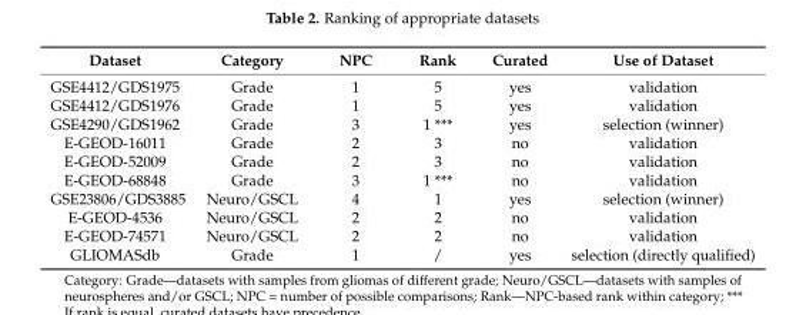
<table><thead><tr><td>Dataset</td><td>Category</td><td>NPC</td><td>Rank</td><td>Curated</td><td>Use of Dataset</td></tr></thead><tbody><tr><td>GSE4412/GDS1975</td><td>Grade</td><td>1</td><td>5</td><td>yes</td><td>validation</td></tr><tr><td>GSE4412/GDS1976</td><td>Grade</td><td>1</td><td>5</td><td>yes</td><td>validation</td></tr><tr><td>GSE4290/GDS1962</td><td>Grade</td><td>3</td><td>1 ***</td><td>yes</td><td>selection (winner)</td></tr><tr><td>E-GEOD-16011</td><td>Grade</td><td>2</td><td>3</td><td>no</td><td>validation</td></tr><tr><td>E-GEOD-52009</td><td>Grade</td><td>2</td><td>3</td><td>no</td><td>validation</td></tr><tr><td>E-GEOD-68848</td><td>Grade</td><td>3</td><td>1 ***</td><td>no</td><td>validation</td></tr><tr><td>GSE23806/GDS3885</td><td>Neuro/GSCL</td><td>4</td><td>1</td><td>yes</td><td>selection (winner)</td></tr><tr><td>E-GEOD-4536</td><td>Neuro/GSCL</td><td>2</td><td>2</td><td>no</td><td>validation</td></tr><tr><td>E-GEOD-74571</td><td>Neuro/GSCL</td><td>2</td><td>2</td><td>no</td><td>validation</td></tr><tr><td>GLIOMASdb</td><td>Grade</td><td>1</td><td>/</td><td>yes</td><td>selection (directly qualified)</td></tr></tbody></table>